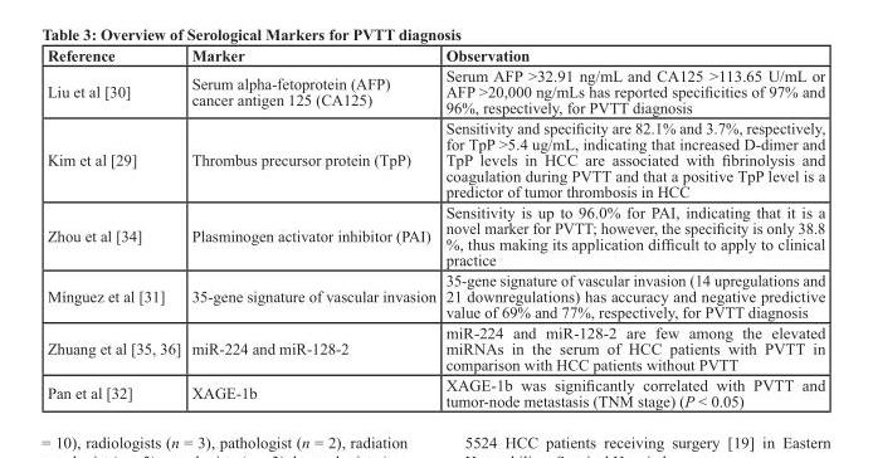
<table><thead><tr><td>Reference</td><td>Marker</td><td>Observation</td></tr></thead><tbody><tr><td>Liu et al [30]</td><td>Serum alpha-fetoprotein (AFP) cancer antigen 125 (CA125)</td><td>Serum AFP &gt;32.91 ng/mL and CA125 &gt;113.65 U/mL or AFP &gt;20,000 ng/mLs has reported specificities of 97% and 96%, respectively, for PVTT diagnosis</td></tr><tr><td>Kim et al [29]</td><td>Thrombus precursor protein (TpP)</td><td>Sensitivity and specificity are 82.1% and 3.7%, respectively, for TpP &gt;5.4 ug/mL, indicating that increased D-dimer and TpP levels in HCC are associated with fibrinolysis and coagulation during PVTT and that a positive TpP level is a predictor of tumor thrombosis in HCC</td></tr><tr><td>Zhou et al [34]</td><td>Plasminogen activator inhibitor (PAI)</td><td>Sensitivity is up to 96.0% for PAI, indicating that it is a novel marker for PVTT; however, the specificity is only 38.8 %, thus making its application difficult to apply to clinical practice</td></tr><tr><td>Mínguez et al [31]</td><td>35-gene signature of vascular invasion</td><td>35-gene signature of vascular invasion (14 upregulations and 21 downregulations) has accuracy and negative predictive value of 69% and 77%, respectively, for PVTT diagnosis</td></tr><tr><td>Zhuang et al [35, 36]</td><td>miR-224 and miR-128-2</td><td>miR-224 and miR-128-2 are few among the elevated miRNAs in the serum of HCC patients with PVTT in comparison with HCC patients without PVTT</td></tr><tr><td>Pan et al [32]</td><td>XAGE-1b</td><td>XAGE-1b was significantly correlated with PVTT and tumor-node metastasis (TNM stage) (P &lt; 0.05)</td></tr></tbody></table>